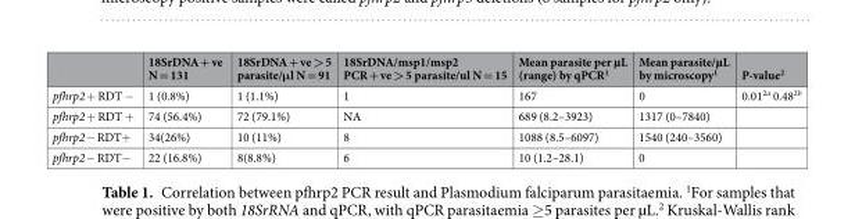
<table><thead><tr><td></td><td>18SrDNA + ve N = 131</td><td>18SrDNA + ve &gt; 5 parasite/μl N = 91</td><td>18SrDNA/msp1/msp2 PCR + ve &gt; 5 parasite/ul N = 15</td><td>Mean parasite per µL (range) by qPCR<sup>1</sup></td><td>Mean parasite/µL by microscopy<sup>1</sup></td><td>P-value<sup>2</sup></td></tr></thead><tbody><tr><td>pfhrp2 + RDT −</td><td>1 (0.8%)</td><td>1 (1.1%)</td><td>1</td><td>167</td><td>0</td><td>0.01<sup>2a</sup> 0.48<sup>2b</sup></td></tr><tr><td>pfhrp2 + RDT +</td><td>74 (56.4%)</td><td>72 (79.1%)</td><td>NA</td><td>689 (8.2–3923)</td><td>1317 (0–7840)</td><td></td></tr><tr><td>pfhrp2− RDT+</td><td>34(26%)</td><td>10 (11%)</td><td>8</td><td>1088 (8.5–6097)</td><td>1540 (240–3560)</td><td></td></tr><tr><td>pfhrp2− RDT−</td><td>22 (16.8%)</td><td>8(8.8%)</td><td>6</td><td>10 (1.2–28.1)</td><td>0</td><td></td></tr></tbody></table>